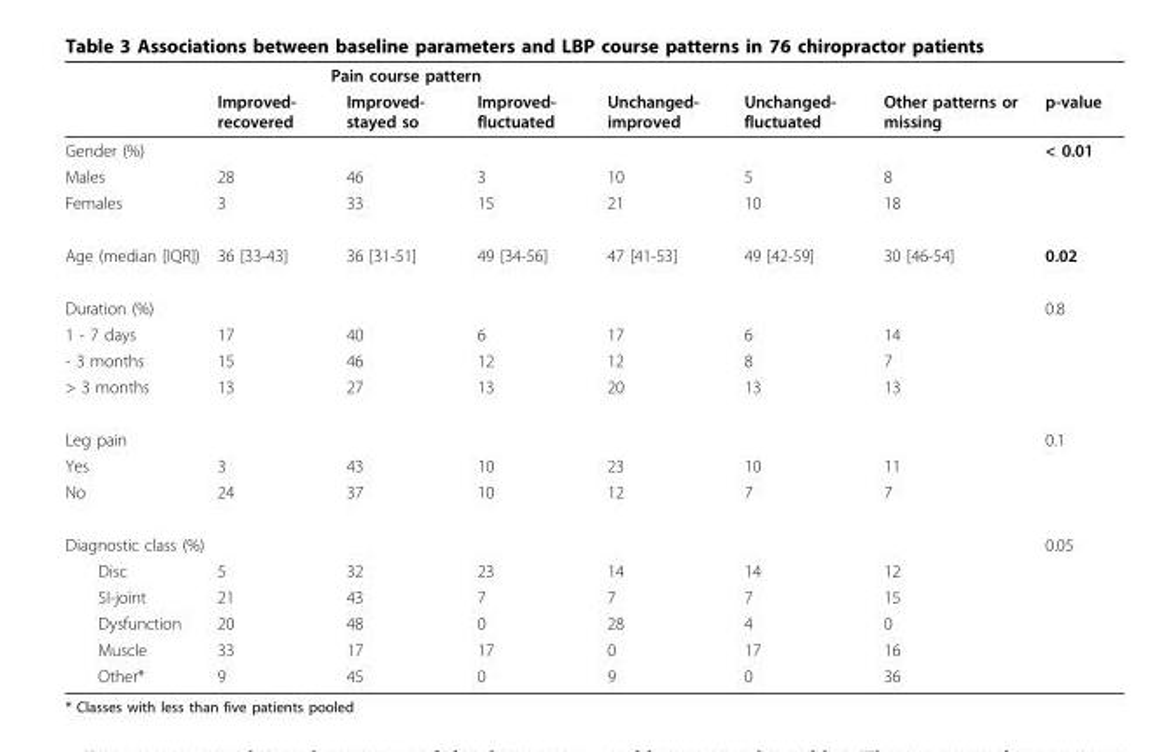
<table><thead><tr><td rowspan="2"></td><td colspan="3">Pain course pattern</td><td rowspan="2">Unchanged- improved</td><td rowspan="2">Unchanged- fluctuated</td><td rowspan="2">Other patterns or missing</td><td rowspan="2">p-value</td></tr><tr><td>Improved- recovered</td><td>Improved- stayed so</td><td>Improved- fluctuated</td></tr></thead><tbody><tr><td>Gender (%)</td><td></td><td></td><td></td><td></td><td></td><td></td><td>&lt; 0.01</td></tr><tr><td>Males</td><td>28</td><td>46</td><td>3</td><td>10</td><td>5</td><td>8</td><td></td></tr><tr><td>Females</td><td>3</td><td>33</td><td>15</td><td>21</td><td>10</td><td>18</td><td></td></tr><tr><td>Age (median [IQR])</td><td>36 [33-43]</td><td>36 [31-51]</td><td>49 [34-56]</td><td>47 [41-53]</td><td>49 [42-59]</td><td>30 [46-54]</td><td>0.02</td></tr><tr><td>Duration (%)</td><td></td><td></td><td></td><td></td><td></td><td></td><td>0.8</td></tr><tr><td>1 - 7 days</td><td>17</td><td>40</td><td>6</td><td>17</td><td>6</td><td>14</td><td></td></tr><tr><td>- 3 months</td><td>15</td><td>46</td><td>12</td><td>12</td><td>8</td><td>7</td><td></td></tr><tr><td>&gt; 3 months</td><td>13</td><td>27</td><td>13</td><td>20</td><td>13</td><td>13</td><td></td></tr><tr><td>Leg pain</td><td></td><td></td><td></td><td></td><td></td><td></td><td>0.1</td></tr><tr><td>Yes</td><td>3</td><td>43</td><td>10</td><td>23</td><td>10</td><td>11</td><td></td></tr><tr><td>No</td><td>24</td><td>37</td><td>10</td><td>12</td><td>7</td><td>7</td><td></td></tr><tr><td>Diagnostic class (%)</td><td></td><td></td><td></td><td></td><td></td><td></td><td>0.05</td></tr><tr><td>Disc</td><td>5</td><td>32</td><td>23</td><td>14</td><td>14</td><td>12</td><td></td></tr><tr><td>SI-joint</td><td>21</td><td>43</td><td>7</td><td>7</td><td>7</td><td>15</td><td></td></tr><tr><td>Dysfunction</td><td>20</td><td>48</td><td>0</td><td>28</td><td>4</td><td>0</td><td></td></tr><tr><td>Muscle</td><td>33</td><td>17</td><td>17</td><td>0</td><td>17</td><td>16</td><td></td></tr><tr><td>Other*</td><td>9</td><td>45</td><td>0</td><td>9</td><td>0</td><td>36</td><td></td></tr></tbody></table>